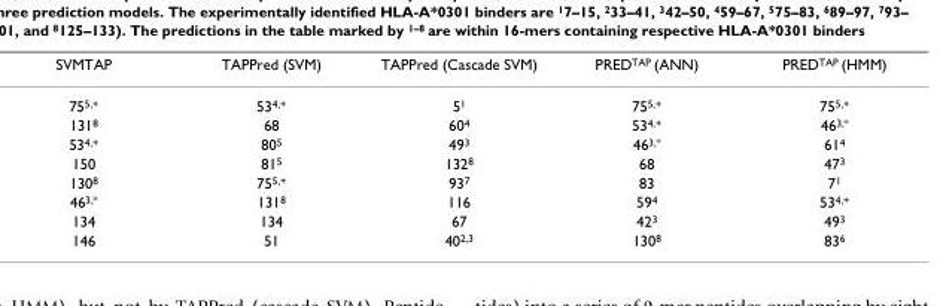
<table><thead><tr><td>SVMTAP</td><td>TAPPred (SVM)</td><td>TAPPred (Cascade SVM)</td><td>PRED<sup>TAP</sup> (ANN)</td><td>PRED<sup>TAP</sup> (HMM)</td></tr></thead><tbody><tr><td>75<sup>5,+</sup></td><td>53<sup>4,+</sup></td><td>5<sup>1</sup></td><td>75<sup>5,+</sup></td><td>75<sup>5,+</sup></td></tr><tr><td>131<sup>8</sup></td><td>68</td><td>60<sup>4</sup></td><td>53<sup>4,+</sup></td><td>46<sup>3,*</sup></td></tr><tr><td>53<sup>4,+</sup></td><td>80<sup>5</sup></td><td>49<sup>3</sup></td><td>46<sup>3,*</sup></td><td>61<sup>4</sup></td></tr><tr><td>150</td><td>81<sup>5</sup></td><td>132<sup>8</sup></td><td>68</td><td>47<sup>3</sup></td></tr><tr><td>130<sup>8</sup></td><td>75<sup>5,+</sup></td><td>93<sup>7</sup></td><td>83</td><td>7<sup>1</sup></td></tr><tr><td>46<sup>3,*</sup></td><td>131<sup>8</sup></td><td>116</td><td>59<sup>4</sup></td><td>53<sup>4,+</sup></td></tr><tr><td>134</td><td>134</td><td>67</td><td>42<sup>3</sup></td><td>49<sup>3</sup></td></tr><tr><td>146</td><td>51</td><td>40<sup>2,3</sup></td><td>130<sup>8</sup></td><td>83<sup>6</sup></td></tr></tbody></table>